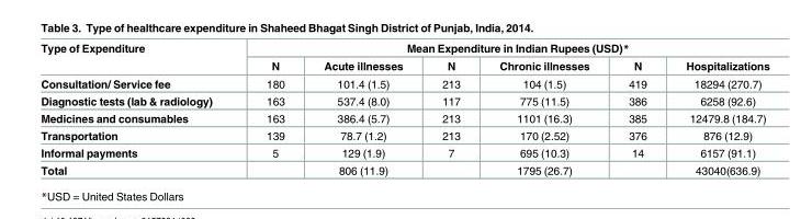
<table><thead><tr><td rowspan="2">Type of Expenditure</td><td colspan="6">Mean Expenditure in Indian Rupees (USD)*</td></tr><tr><td>N</td><td>Acute illnesses</td><td>N</td><td>Chronic illnesses</td><td>N</td><td>Hospitalizations</td></tr></thead><tbody><tr><td>Consultation/ Service fee</td><td>180</td><td>101.4 (1.5)</td><td>213</td><td>104 (1.5)</td><td>419</td><td>18294 (270.7)</td></tr><tr><td>Diagnostic tests (lab &amp; radiology)</td><td>163</td><td>537.4 (8.0)</td><td>117</td><td>775 (11.5)</td><td>386</td><td>6258 (92.6)</td></tr><tr><td>Medicines and consumables</td><td>163</td><td>386.4 (5.7)</td><td>213</td><td>1101 (16.3)</td><td>385</td><td>12479.8 (184.7)</td></tr><tr><td>Transportation</td><td>139</td><td>78.7 (1.2)</td><td>213</td><td>170 (2.52)</td><td>376</td><td>876 (12.9)</td></tr><tr><td>Informal payments</td><td>5</td><td>129 (1.9)</td><td>7</td><td>695 (10.3)</td><td>14</td><td>6157 (91.1)</td></tr><tr><td>Total</td><td></td><td>806 (11.9)</td><td></td><td>1795 (26.7)</td><td></td><td>43040(636.9)</td></tr></tbody></table>